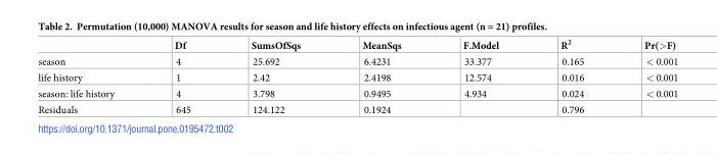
<table><thead><tr><td></td><td>Df</td><td>SumsOfSqs</td><td>MeanSqs</td><td>F.Model</td><td>R<sup>2</sup></td><td>Pr(&gt;F)</td></tr></thead><tbody><tr><td>season</td><td>4</td><td>25.692</td><td>6.4231</td><td>33.377</td><td>0.165</td><td>&lt; 0.001</td></tr><tr><td>life history</td><td>1</td><td>2.42</td><td>2.4198</td><td>12.574</td><td>0.016</td><td>&lt; 0.001</td></tr><tr><td>season: life history</td><td>4</td><td>3.798</td><td>0.9495</td><td>4.934</td><td>0.024</td><td>&lt; 0.001</td></tr><tr><td>Residuals</td><td>645</td><td>124.122</td><td>0.1924</td><td></td><td>0.796</td><td></td></tr></tbody></table>